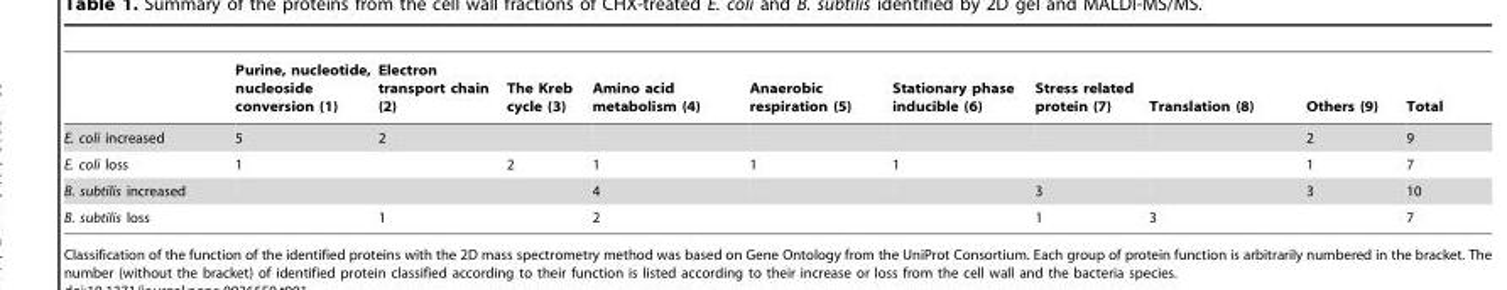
<table><thead><tr><td></td><td>Purine, nucleotide, nucleoside conversion (1)</td><td>Electron transport chain (2)</td><td>The Kreb cycle (3)</td><td>Amino acid metabolism (4)</td><td>Anaerobic respiration (5)</td><td>Stationary phase inducible (6)</td><td>Stress related protein (7)</td><td>Translation (8)</td><td>Others (9)</td><td>Total</td></tr></thead><tbody><tr><td>E. coli increased</td><td>5</td><td>2</td><td></td><td></td><td></td><td></td><td></td><td></td><td>2</td><td>9</td></tr><tr><td>E. coli loss</td><td>1</td><td></td><td>2</td><td>1</td><td>1</td><td>1</td><td></td><td></td><td>1</td><td>7</td></tr><tr><td>B. subtilis increased</td><td></td><td></td><td></td><td>4</td><td></td><td></td><td>3</td><td></td><td>3</td><td>10</td></tr><tr><td>B. subtilis loss</td><td></td><td>1</td><td></td><td>2</td><td></td><td></td><td>1</td><td>3</td><td></td><td>7</td></tr></tbody></table>